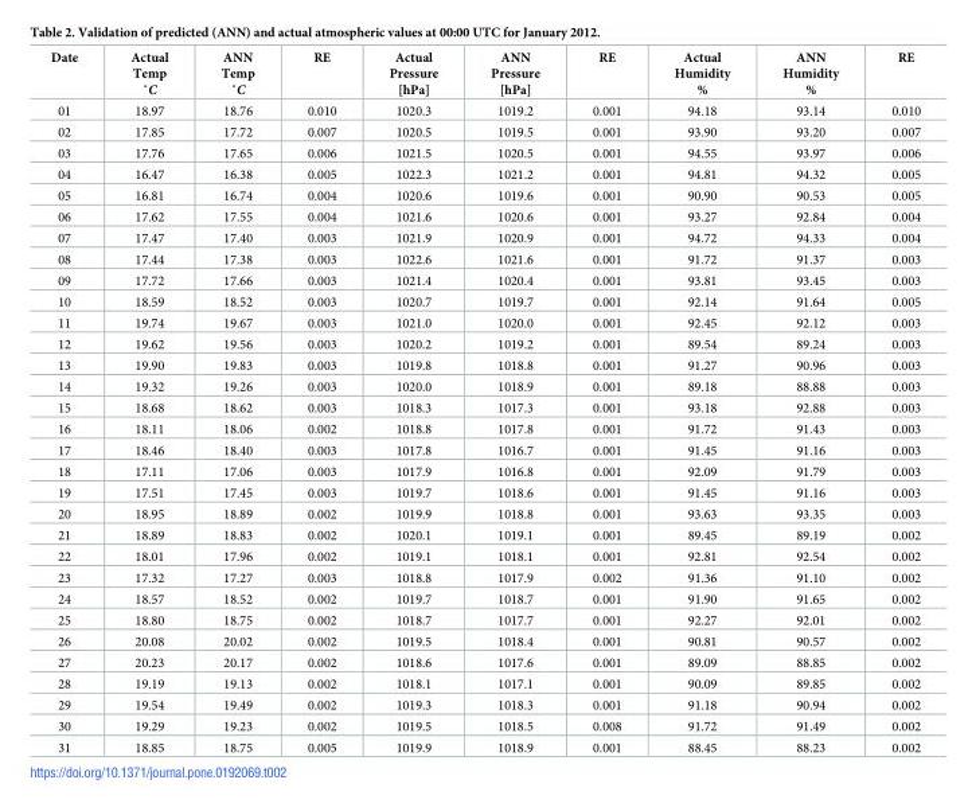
<table><thead><tr><td>Date</td><td>Actual Temp ˚C</td><td>ANN Temp ˚C</td><td>RE</td><td>Actual Pressure [hPa]</td><td>ANN Pressure [hPa]</td><td>RE</td><td>Actual Humidity %</td><td>ANN Humidity %</td><td>RE</td></tr></thead><tbody><tr><td>01</td><td>18.97</td><td>18.76</td><td>0.010</td><td>1020.3</td><td>1019.2</td><td>0.001</td><td>94.18</td><td>93.14</td><td>0.010</td></tr><tr><td>02</td><td>17.85</td><td>17.72</td><td>0.007</td><td>1020.5</td><td>1019.5</td><td>0.001</td><td>93.90</td><td>93.20</td><td>0.007</td></tr><tr><td>03</td><td>17.76</td><td>17.65</td><td>0.006</td><td>1021.5</td><td>1020.5</td><td>0.001</td><td>94.55</td><td>93.97</td><td>0.006</td></tr><tr><td>04</td><td>16.47</td><td>16.38</td><td>0.005</td><td>1022.3</td><td>1021.2</td><td>0.001</td><td>94.81</td><td>94.32</td><td>0.005</td></tr><tr><td>05</td><td>16.81</td><td>16.74</td><td>0.004</td><td>1020.6</td><td>1019.6</td><td>0.001</td><td>90.90</td><td>90.53</td><td>0.005</td></tr><tr><td>06</td><td>17.62</td><td>17.55</td><td>0.004</td><td>1021.6</td><td>1020.6</td><td>0.001</td><td>93.27</td><td>92.84</td><td>0.004</td></tr><tr><td>07</td><td>17.47</td><td>17.40</td><td>0.003</td><td>1021.9</td><td>1020.9</td><td>0.001</td><td>94.72</td><td>94.33</td><td>0.004</td></tr><tr><td>08</td><td>17.44</td><td>17.38</td><td>0.003</td><td>1022.6</td><td>1021.6</td><td>0.001</td><td>91.72</td><td>91.37</td><td>0.003</td></tr><tr><td>09</td><td>17.72</td><td>17.66</td><td>0.003</td><td>1021.4</td><td>1020.4</td><td>0.001</td><td>93.81</td><td>93.45</td><td>0.003</td></tr><tr><td>10</td><td>18.59</td><td>18.52</td><td>0.003</td><td>1020.7</td><td>1019.7</td><td>0.001</td><td>92.14</td><td>91.64</td><td>0.005</td></tr><tr><td>11</td><td>19.74</td><td>19.67</td><td>0.003</td><td>1021.0</td><td>1020.0</td><td>0.001</td><td>92.45</td><td>92.12</td><td>0.003</td></tr><tr><td>12</td><td>19.62</td><td>19.56</td><td>0.003</td><td>1020.2</td><td>1019.2</td><td>0.001</td><td>89.54</td><td>89.24</td><td>0.003</td></tr><tr><td>13</td><td>19.90</td><td>19.83</td><td>0.003</td><td>1019.8</td><td>1018.8</td><td>0.001</td><td>91.27</td><td>90.96</td><td>0.003</td></tr><tr><td>14</td><td>19.32</td><td>19.26</td><td>0.003</td><td>1020.0</td><td>1018.9</td><td>0.001</td><td>89.18</td><td>88.88</td><td>0.003</td></tr><tr><td>15</td><td>18.68</td><td>18.62</td><td>0.003</td><td>1018.3</td><td>1017.3</td><td>0.001</td><td>93.18</td><td>92.88</td><td>0.003</td></tr><tr><td>16</td><td>18.11</td><td>18.06</td><td>0.002</td><td>1018.8</td><td>1017.8</td><td>0.001</td><td>91.72</td><td>91.43</td><td>0.003</td></tr><tr><td>17</td><td>18.46</td><td>18.40</td><td>0.003</td><td>1017.8</td><td>1016.7</td><td>0.001</td><td>91.45</td><td>91.16</td><td>0.003</td></tr><tr><td>18</td><td>17.11</td><td>17.06</td><td>0.003</td><td>1017.9</td><td>1016.8</td><td>0.001</td><td>92.09</td><td>91.79</td><td>0.003</td></tr><tr><td>19</td><td>17.51</td><td>17.45</td><td>0.003</td><td>1019.7</td><td>1018.6</td><td>0.001</td><td>91.45</td><td>91.16</td><td>0.003</td></tr><tr><td>20</td><td>18.95</td><td>18.89</td><td>0.002</td><td>1019.9</td><td>1018.8</td><td>0.001</td><td>93.63</td><td>93.35</td><td>0.003</td></tr><tr><td>21</td><td>18.89</td><td>18.83</td><td>0.002</td><td>1020.1</td><td>1019.1</td><td>0.001</td><td>89.45</td><td>89.19</td><td>0.002</td></tr><tr><td>22</td><td>18.01</td><td>17.96</td><td>0.002</td><td>1019.1</td><td>1018.1</td><td>0.001</td><td>92.81</td><td>92.54</td><td>0.002</td></tr><tr><td>23</td><td>17.32</td><td>17.27</td><td>0.003</td><td>1018.8</td><td>1017.9</td><td>0.002</td><td>91.36</td><td>91.10</td><td>0.002</td></tr><tr><td>24</td><td>18.57</td><td>18.52</td><td>0.002</td><td>1019.7</td><td>1018.7</td><td>0.001</td><td>91.90</td><td>91.65</td><td>0.002</td></tr><tr><td>25</td><td>18.80</td><td>18.75</td><td>0.002</td><td>1018.7</td><td>1017.7</td><td>0.001</td><td>92.27</td><td>92.01</td><td>0.002</td></tr><tr><td>26</td><td>20.08</td><td>20.02</td><td>0.002</td><td>1019.5</td><td>1018.4</td><td>0.001</td><td>90.81</td><td>90.57</td><td>0.002</td></tr><tr><td>27</td><td>20.23</td><td>20.17</td><td>0.002</td><td>1018.6</td><td>1017.6</td><td>0.001</td><td>89.09</td><td>88.85</td><td>0.002</td></tr><tr><td>28</td><td>19.19</td><td>19.13</td><td>0.002</td><td>1018.1</td><td>1017.1</td><td>0.001</td><td>90.09</td><td>89.85</td><td>0.002</td></tr><tr><td>29</td><td>19.54</td><td>19.49</td><td>0.002</td><td>1019.3</td><td>1018.3</td><td>0.001</td><td>91.18</td><td>90.94</td><td>0.002</td></tr><tr><td>30</td><td>19.29</td><td>19.23</td><td>0.002</td><td>1019.5</td><td>1018.5</td><td>0.008</td><td>91.72</td><td>91.49</td><td>0.002</td></tr><tr><td>31</td><td>18.85</td><td>18.75</td><td>0.005</td><td>1019.9</td><td>1018.9</td><td>0.001</td><td>88.45</td><td>88.23</td><td>0.002</td></tr></tbody></table>